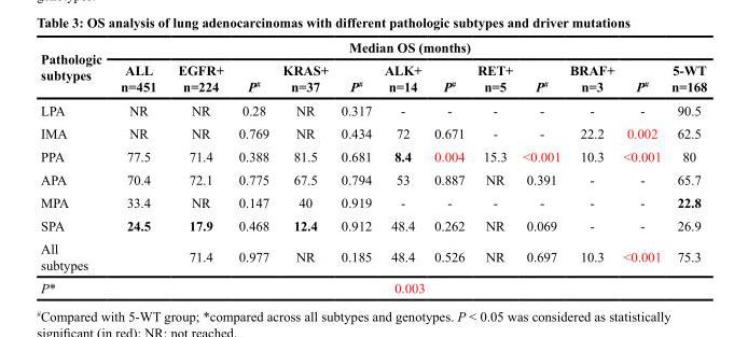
<table><thead><tr><td rowspan="2">Pathologic subtypes</td><td colspan="12">Median OS (months)</td></tr><tr><td>ALL n=451</td><td>EGFR+ n=224</td><td>P<sup>#</sup></td><td>KRAS+ n=37</td><td>P<sup>#</sup></td><td>ALK+ n=14</td><td>P<sup>#</sup></td><td>RET+ n=5</td><td>P<sup>#</sup></td><td>BRAF+ n=3</td><td>P<sup>#</sup></td><td>5-WT n=168</td></tr></thead><tbody><tr><td>LPA</td><td>NR</td><td>NR</td><td>0.28</td><td>NR</td><td>0.317</td><td>-</td><td>-</td><td>-</td><td>-</td><td>-</td><td>-</td><td>90.5</td></tr><tr><td>IMA</td><td>NR</td><td>NR</td><td>0.769</td><td>NR</td><td>0.434</td><td>72</td><td>0.671</td><td>-</td><td>-</td><td>22.2</td><td>0.002</td><td>62.5</td></tr><tr><td>PPA</td><td>77.5</td><td>71.4</td><td>0.388</td><td>81.5</td><td>0.681</td><td>8.4</td><td>0.004</td><td>15.3</td><td>&lt;0.001</td><td>10.3</td><td>&lt;0.001</td><td>80</td></tr><tr><td>APA</td><td>70.4</td><td>72.1</td><td>0.775</td><td>67.5</td><td>0.794</td><td>53</td><td>0.887</td><td>NR</td><td>0.391</td><td>-</td><td>-</td><td>65.7</td></tr><tr><td>MPA</td><td>33.4</td><td>NR</td><td>0.147</td><td>40</td><td>0.919</td><td>-</td><td>-</td><td>-</td><td>-</td><td>-</td><td>-</td><td>22.8</td></tr><tr><td>SPA</td><td>24.5</td><td>17.9</td><td>0.468</td><td>12.4</td><td>0.912</td><td>48.4</td><td>0.262</td><td>NR</td><td>0.069</td><td>-</td><td>-</td><td>26.9</td></tr><tr><td>All subtypes</td><td></td><td>71.4</td><td>0.977</td><td>NR</td><td>0.185</td><td>48.4</td><td>0.526</td><td>NR</td><td>0.697</td><td>10.3</td><td>&lt;0.001</td><td>75.3</td></tr><tr><td>P*</td><td colspan="12">0.003</td></tr></tbody></table>